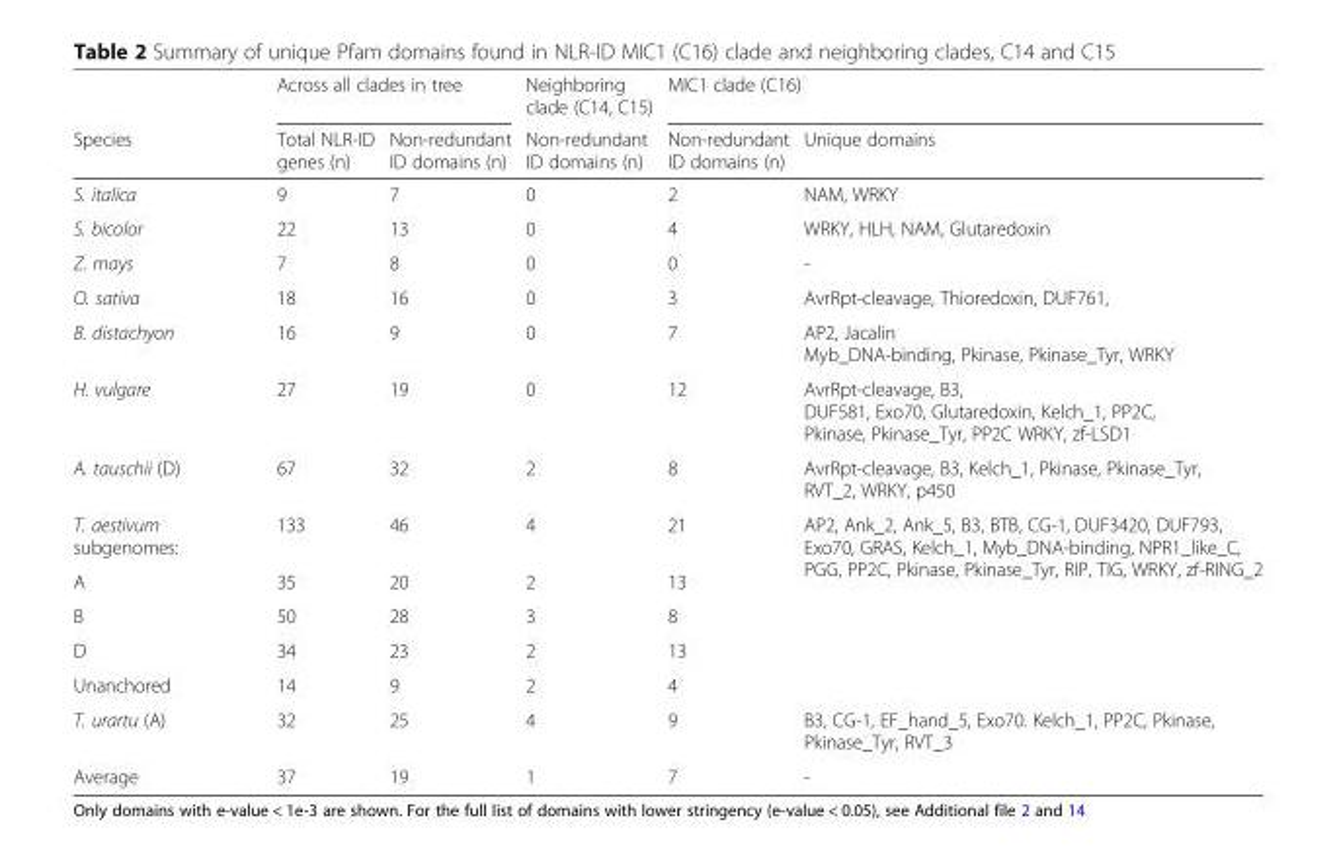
<table><thead><tr><td rowspan="2">Species</td><td colspan="2">Across all clades in tree</td><td rowspan="2">Neighboring clade (C14, C15) Non-redundant ID domains (n)</td><td colspan="2">MIC1 clade (C16)</td></tr><tr><td>Total NLR-ID genes (n)</td><td>Non-redundant ID domains (n)</td><td>Non-redundant ID domains (n)</td><td>Unique domains</td></tr></thead><tbody><tr><td>S. italica</td><td>9</td><td>7</td><td>0</td><td>2</td><td>NAM, WRKY</td></tr><tr><td>S. bicolor</td><td>22</td><td>13</td><td>0</td><td>4</td><td>WRKY, HLH, NAM, Glutaredoxin</td></tr><tr><td>Z. mays</td><td>7</td><td>8</td><td>0</td><td>0</td><td>-</td></tr><tr><td>O. sativa</td><td>18</td><td>16</td><td>0</td><td>3</td><td>AvrRpt-cleavage, Thioredoxin, DUF761,</td></tr><tr><td>B. distachyon</td><td>16</td><td>9</td><td>0</td><td>7</td><td>AP2, Jacalin Myb_DNA-binding, Pkinase, Pkinase_Tyr, WRKY</td></tr><tr><td>H. vulgare</td><td>27</td><td>19</td><td>0</td><td>12</td><td>AvrRpt-cleavage, B3, DUF581, Exo70, Glutaredoxin, Kelch_1, PP2C, Pkinase, Pkinase_Tyr, PP2C WRKY, zf-LSD1</td></tr><tr><td>A. tauschii (D)</td><td>67</td><td>32</td><td>2</td><td>8</td><td>AvrRpt-cleavage, B3, Kelch_1, Pkinase, Pkinase_Tyr, RVT_2, WRKY, p450</td></tr><tr><td>T. aestivum subgenomes:</td><td>133</td><td>46</td><td>4</td><td>21</td><td rowspan="5">AP2, Ank_2, Ank_5, B3, BTB, CG-1, DUF3420, DUF793, Exo70, GRAS, Kelch_1, Myb_DNA-binding, NPR1_like_C, PGG, PP2C, Pkinase, Pkinase_Tyr, RIP, TIG, WRKY, zf-RING_2</td></tr><tr><td>A</td><td>35</td><td>20</td><td>2</td><td>13</td></tr><tr><td>B</td><td>50</td><td>28</td><td>3</td><td>8</td></tr><tr><td>D</td><td>34</td><td>23</td><td>2</td><td>13</td></tr><tr><td>Unanchored</td><td>14</td><td>9</td><td>2</td><td>4</td></tr><tr><td>T. urartu (A)</td><td>32</td><td>25</td><td>4</td><td>9</td><td>B3, CG-1, EF_hand_5, Exo70. Kelch_1, PP2C, Pkinase, Pkinase_Tyr, RVT_3</td></tr><tr><td>Average</td><td>37</td><td>19</td><td>1</td><td>7</td><td>-</td></tr></tbody></table>